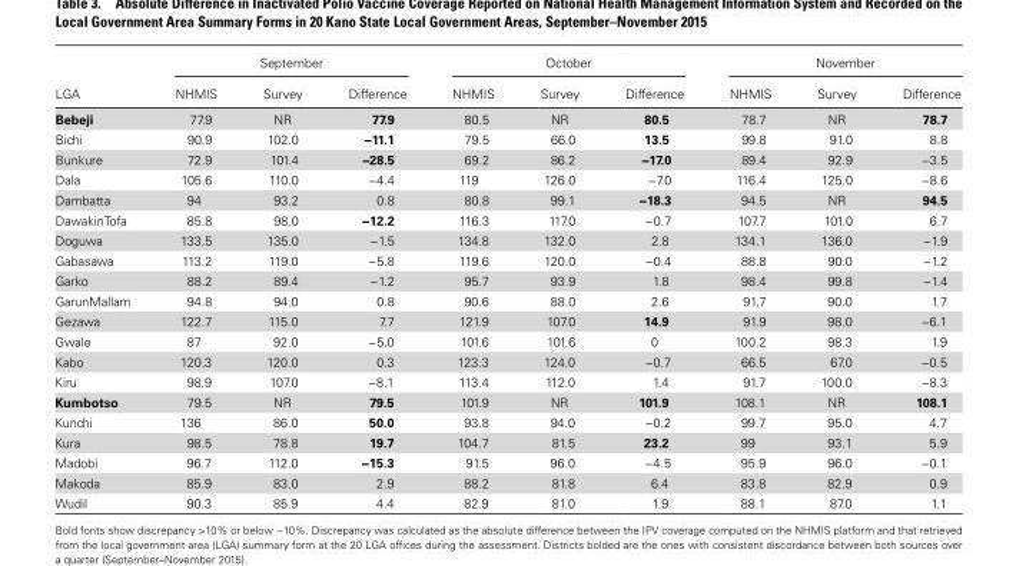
<table><thead><tr><td rowspan="2">LGA</td><td colspan="3">September</td><td colspan="3">October</td><td colspan="3">November</td></tr><tr><td>NHMIS</td><td>Survey</td><td>Difference</td><td>NHMIS</td><td>Survey</td><td>Difference</td><td>NHMIS</td><td>Survey</td><td>Difference</td></tr></thead><tbody><tr><td>Bebeji</td><td>77.9</td><td>NR</td><td>77.9</td><td>80.5</td><td>NR</td><td>80.5</td><td>78.7</td><td>NR</td><td>78.7</td></tr><tr><td>Bichi</td><td>90.9</td><td>102.0</td><td>−11.1</td><td>79.5</td><td>66.0</td><td>13.5</td><td>99.8</td><td>91.0</td><td>8.8</td></tr><tr><td>Bunkure</td><td>72.9</td><td>101.4</td><td>−28.5</td><td>69.2</td><td>86.2</td><td>−17.0</td><td>89.4</td><td>92.9</td><td>−3.5</td></tr><tr><td>Dala</td><td>105.6</td><td>110.0</td><td>−4.4</td><td>119</td><td>126.0</td><td>−7.0</td><td>116.4</td><td>125.0</td><td>−8.6</td></tr><tr><td>Dambatta</td><td>94</td><td>93.2</td><td>0.8</td><td>80.8</td><td>99.1</td><td>−18.3</td><td>94.5</td><td>NR</td><td>94.5</td></tr><tr><td>DawakinTofa</td><td>85.8</td><td>98.0</td><td>−12.2</td><td>116.3</td><td>117.0</td><td>−0.7</td><td>107.7</td><td>101.0</td><td>6.7</td></tr><tr><td>Doguwa</td><td>133.5</td><td>135.0</td><td>−1.5</td><td>134.8</td><td>132.0</td><td>2.8</td><td>134.1</td><td>136.0</td><td>−1.9</td></tr><tr><td>Gabasawa</td><td>113.2</td><td>119.0</td><td>−5.8</td><td>119.6</td><td>120.0</td><td>−0.4</td><td>88.8</td><td>90.0</td><td>−1.2</td></tr><tr><td>Garko</td><td>88.2</td><td>89.4</td><td>−1.2</td><td>95.7</td><td>93.9</td><td>1.8</td><td>98.4</td><td>99.8</td><td>−1.4</td></tr><tr><td>GarunMallam</td><td>94.8</td><td>94.0</td><td>0.8</td><td>90.6</td><td>88.0</td><td>2.6</td><td>91.7</td><td>90.0</td><td>1.7</td></tr><tr><td>Gezawa</td><td>122.7</td><td>115.0</td><td>7.7</td><td>121.9</td><td>107.0</td><td>14.9</td><td>91.9</td><td>98.0</td><td>−6.1</td></tr><tr><td>Gwale</td><td>87</td><td>92.0</td><td>−5.0</td><td>101.6</td><td>101.6</td><td>0</td><td>100.2</td><td>98.3</td><td>1.9</td></tr><tr><td>Kabo</td><td>120.3</td><td>120.0</td><td>0.3</td><td>123.3</td><td>124.0</td><td>−0.7</td><td>66.5</td><td>67.0</td><td>−0.5</td></tr><tr><td>Kiru</td><td>98.9</td><td>107.0</td><td>−8.1</td><td>113.4</td><td>112.0</td><td>1.4</td><td>91.7</td><td>100.0</td><td>−8.3</td></tr><tr><td>Kumbotso</td><td>79.5</td><td>NR</td><td>79.5</td><td>101.9</td><td>NR</td><td>101.9</td><td>108.1</td><td>NR</td><td>108.1</td></tr><tr><td>Kunchi</td><td>136</td><td>86.0</td><td>50.0</td><td>93.8</td><td>94.0</td><td>−0.2</td><td>99.7</td><td>95.0</td><td>4.7</td></tr><tr><td>Kura</td><td>98.5</td><td>78.8</td><td>19.7</td><td>104.7</td><td>81.5</td><td>23.2</td><td>99</td><td>93.1</td><td>5.9</td></tr><tr><td>Madobi</td><td>96.7</td><td>112.0</td><td>−15.3</td><td>91.5</td><td>96.0</td><td>−4.5</td><td>95.9</td><td>96.0</td><td>−0.1</td></tr><tr><td>Makoda</td><td>85.9</td><td>83.0</td><td>2.9</td><td>88.2</td><td>81.8</td><td>6.4</td><td>83.8</td><td>82.9</td><td>0.9</td></tr><tr><td>Wudil</td><td>90.3</td><td>85.9</td><td>4.4</td><td>82.9</td><td>81.0</td><td>1.9</td><td>88.1</td><td>87.0</td><td>1.1</td></tr></tbody></table>